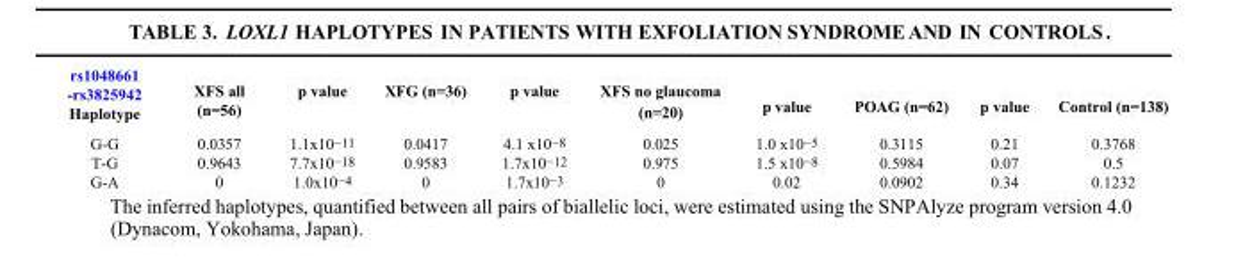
<table><thead><tr><td>rs1048661 -rs3825942 Haplotype</td><td>XFS all (n=56)</td><td>p value</td><td>XFG (n=36)</td><td>p value</td><td>XFS no glaucoma (n=20)</td><td>p value</td><td>POAG (n=62)</td><td>p value</td><td>Control (n=138)</td></tr></thead><tbody><tr><td>G-G</td><td>0.0357</td><td>1.1x10<sup>−11</sup></td><td>0.0417</td><td>4.1 x10<sup>−8</sup></td><td>0.025</td><td>1.0 x10<sup>−5</sup></td><td>0.3115</td><td>0.21</td><td>0.3768</td></tr><tr><td>T-G</td><td>0.9643</td><td>7.7x10<sup>−18</sup></td><td>0.9583</td><td>1.7x10<sup>−12</sup></td><td>0.975</td><td>1.5 x10<sup>−8</sup></td><td>0.5984</td><td>0.07</td><td>0.5</td></tr><tr><td>G-A</td><td>0</td><td>1.0x10<sup>−4</sup></td><td>0</td><td>1.7x10<sup>−3</sup></td><td>0</td><td>0.02</td><td>0.0902</td><td>0.34</td><td>0.1232</td></tr></tbody></table>